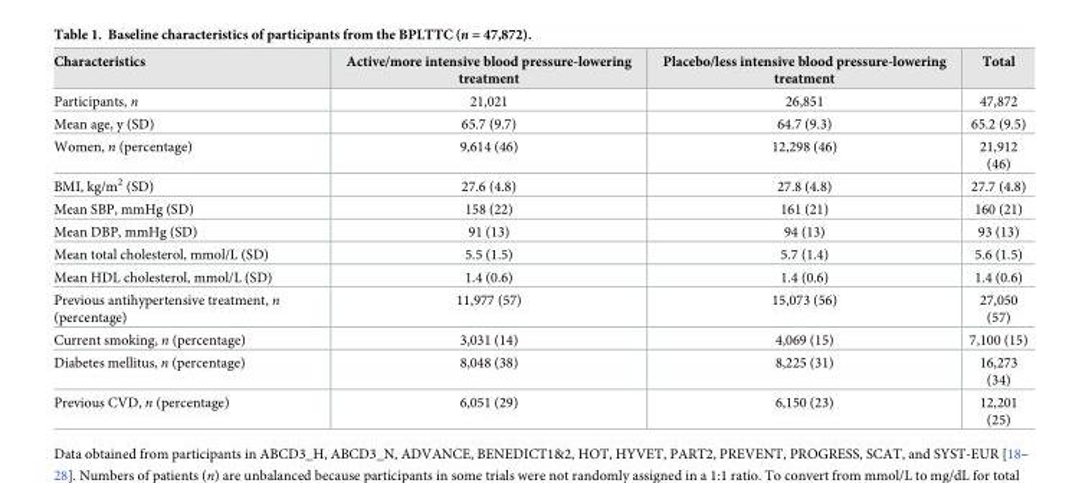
<table><thead><tr><td>Characteristics</td><td>Active/more intensive blood pressure-lowering treatment</td><td>Placebo/less intensive blood pressure-lowering treatment</td><td>Total</td></tr></thead><tbody><tr><td>Participants, n</td><td>21,021</td><td>26,851</td><td>47,872</td></tr><tr><td>Mean age, y (SD)</td><td>65.7 (9.7)</td><td>64.7 (9.3)</td><td>65.2 (9.5)</td></tr><tr><td>Women, n (percentage)</td><td>9,614 (46)</td><td>12,298 (46)</td><td>21,912 (46)</td></tr><tr><td>BMI, kg/m<sup>2</sup> (SD)</td><td>27.6 (4.8)</td><td>27.8 (4.8)</td><td>27.7 (4.8)</td></tr><tr><td>Mean SBP, mmHg (SD)</td><td>158 (22)</td><td>161 (21)</td><td>160 (21)</td></tr><tr><td>Mean DBP, mmHg (SD)</td><td>91 (13)</td><td>94 (13)</td><td>93 (13)</td></tr><tr><td>Mean total cholesterol, mmol/L (SD)</td><td>5.5 (1.5)</td><td>5.7 (1.4)</td><td>5.6 (1.5)</td></tr><tr><td>Mean HDL cholesterol, mmol/L (SD)</td><td>1.4 (0.6)</td><td>1.4 (0.6)</td><td>1.4 (0.6)</td></tr><tr><td>Previous antihypertensive treatment, n (percentage)</td><td>11,977 (57)</td><td>15,073 (56)</td><td>27,050 (57)</td></tr><tr><td>Current smoking, n (percentage)</td><td>3,031 (14)</td><td>4,069 (15)</td><td>7,100 (15)</td></tr><tr><td>Diabetes mellitus, n (percentage)</td><td>8,048 (38)</td><td>8,225 (31)</td><td>16,273 (34)</td></tr><tr><td>Previous CVD, n (percentage)</td><td>6,051 (29)</td><td>6,150 (23)</td><td>12,201 (25)</td></tr></tbody></table>